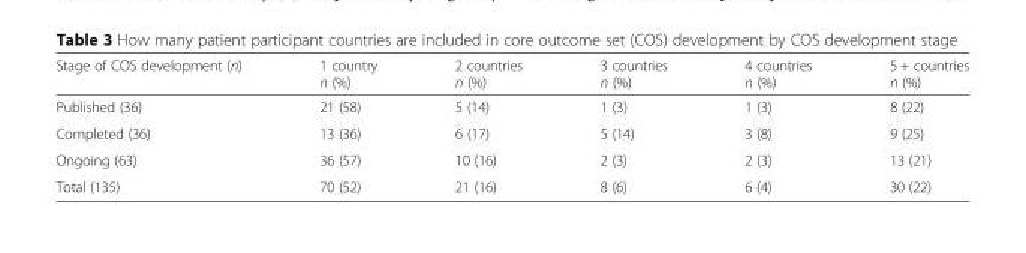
<table><thead><tr><td>Stage of COS development (n)</td><td>1 country n (%)</td><td>2 countries n (%)</td><td>3 countries n (%)</td><td>4 countries n (%)</td><td>5 + countries n (%)</td></tr></thead><tbody><tr><td>Published (36)</td><td>21 (58)</td><td>5 (14)</td><td>1 (3)</td><td>1 (3)</td><td>8 (22)</td></tr><tr><td>Completed (36)</td><td>13 (36)</td><td>6 (17)</td><td>5 (14)</td><td>3 (8)</td><td>9 (25)</td></tr><tr><td>Ongoing (63)</td><td>36 (57)</td><td>10 (16)</td><td>2 (3)</td><td>2 (3)</td><td>13 (21)</td></tr><tr><td>Total (135)</td><td>70 (52)</td><td>21 (16)</td><td>8 (6)</td><td>6 (4)</td><td>30 (22)</td></tr></tbody></table>